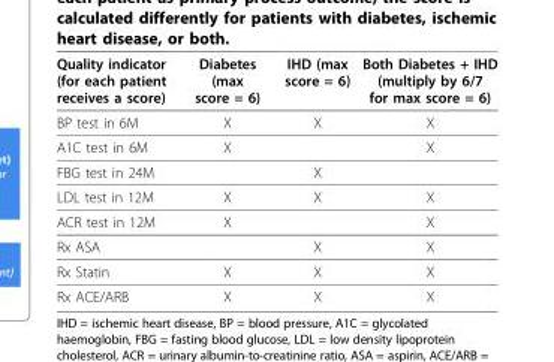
<table><thead><tr><td>Quality indicator (for each patient receives a score)</td><td>Diabetes (max score = 6)</td><td>IHD (max score = 6)</td><td>Both Diabetes + IHD (multiply by 6/7 for max score = 6)</td></tr></thead><tbody><tr><td>BP test in 6M</td><td>X</td><td>X</td><td>X</td></tr><tr><td>A1C test in 6M</td><td>X</td><td></td><td>X</td></tr><tr><td>FBG test in 24M</td><td></td><td>X</td><td></td></tr><tr><td>LDL test in 12M</td><td>X</td><td>X</td><td>X</td></tr><tr><td>ACR test in 12M</td><td>X</td><td></td><td>X</td></tr><tr><td>Rx ASA</td><td></td><td>X</td><td>X</td></tr><tr><td>Rx Statin</td><td>X</td><td>X</td><td>X</td></tr><tr><td>Rx ACE/ARB</td><td>X</td><td>X</td><td>X</td></tr></tbody></table>